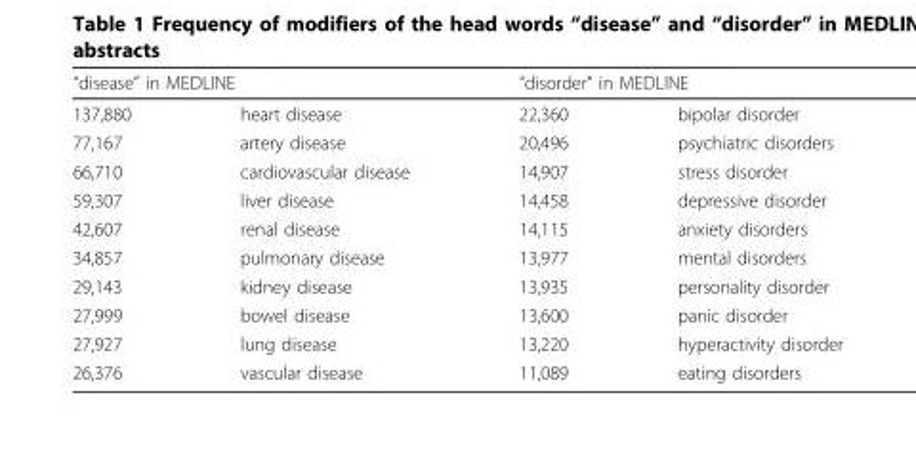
<table><thead><tr><td colspan="2">“disease” in MEDLINE</td><td colspan="2">“disorder” in MEDLINE</td></tr><tr><td>137,880</td><td>heart disease</td><td>22,360</td><td>bipolar disorder</td></tr></thead><tbody><tr><td>77,167</td><td>artery disease</td><td>20,496</td><td>psychiatric disorders</td></tr><tr><td>66,710</td><td>cardiovascular disease</td><td>14,907</td><td>stress disorder</td></tr><tr><td>59,307</td><td>liver disease</td><td>14,458</td><td>depressive disorder</td></tr><tr><td>42,607</td><td>renal disease</td><td>14,115</td><td>anxiety disorders</td></tr><tr><td>34,857</td><td>pulmonary disease</td><td>13,977</td><td>mental disorders</td></tr><tr><td>29,143</td><td>kidney disease</td><td>13,935</td><td>personality disorder</td></tr><tr><td>27,999</td><td>bowel disease</td><td>13,600</td><td>panic disorder</td></tr><tr><td>27,927</td><td>lung disease</td><td>13,220</td><td>hyperactivity disorder</td></tr><tr><td>26,376</td><td>vascular disease</td><td>11,089</td><td>eating disorders</td></tr></tbody></table>